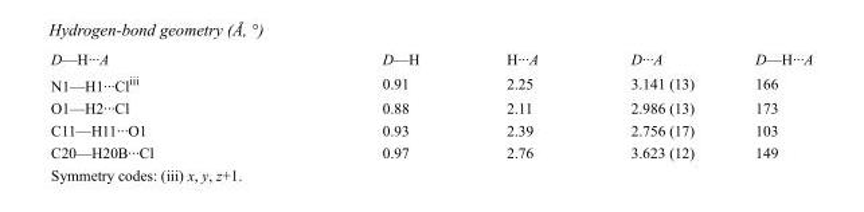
<table><tbody><tr><td>D—H···A</td><td>D—H</td><td>H···A</td><td>D···A</td><td>D—H···A</td></tr><tr><td>N1—H1···Cl<sup>iii</sup></td><td>0.91</td><td>2.25</td><td>3.141 (13)</td><td>166</td></tr><tr><td>O1—H2···Cl</td><td>0.88</td><td>2.11</td><td>2.986 (13)</td><td>173</td></tr><tr><td>C11—H11···O1</td><td>0.93</td><td>2.39</td><td>2.756 (17)</td><td>103</td></tr><tr><td>C20—H20B···Cl</td><td>0.97</td><td>2.76</td><td>3.623 (12)</td><td>149</td></tr></tbody></table>